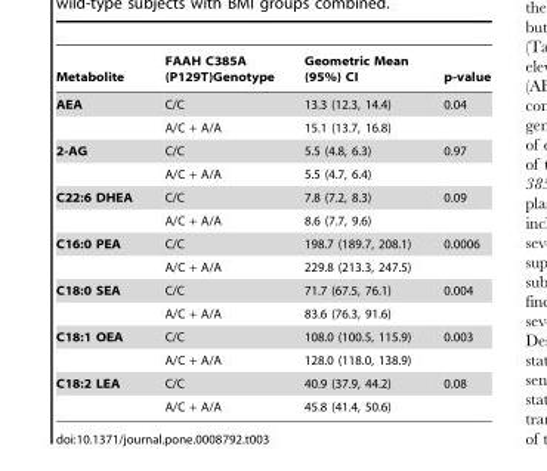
<table><thead><tr><td>Metabolite</td><td>FAAH C385A (P129T)Genotype</td><td>Geometric Mean (95%) CI</td><td>p-value</td></tr></thead><tbody><tr><td rowspan="2">AEA</td><td>C/C</td><td>13.3 (12.3, 14.4)</td><td>0.04</td></tr><tr><td>A/C + A/A</td><td>15.1 (13.7, 16.8)</td><td></td></tr><tr><td rowspan="2">2-AG</td><td>C/C</td><td>5.5 (4.8, 6.3)</td><td>0.97</td></tr><tr><td>A/C + A/A</td><td>5.5 (4.7, 6.4)</td><td></td></tr><tr><td rowspan="2">C22:6 DHEA</td><td>C/C</td><td>7.8 (7.2, 8.3)</td><td>0.09</td></tr><tr><td>A/C + A/A</td><td>8.6 (7.7, 9.6)</td><td></td></tr><tr><td rowspan="2">C16:0 PEA</td><td>C/C</td><td>198.7 (189.7, 208.1)</td><td>0.0006</td></tr><tr><td>A/C + A/A</td><td>229.8 (213.3, 247.5)</td><td></td></tr><tr><td rowspan="2">C18:0 SEA</td><td>C/C</td><td>71.7 (67.5, 76.1)</td><td>0.004</td></tr><tr><td>A/C + A/A</td><td>83.6 (76.3, 91.6)</td><td></td></tr><tr><td rowspan="2">C18:1 OEA</td><td>C/C</td><td>108.0 (100.5, 115.9)</td><td>0.003</td></tr><tr><td>A/C + A/A</td><td>128.0 (118.0, 138.9)</td><td></td></tr><tr><td rowspan="2">C18:2 LEA</td><td>C/C</td><td>40.9 (37.9, 44.2)</td><td>0.08</td></tr><tr><td>A/C + A/A</td><td>45.8 (41.4, 50.6)</td><td></td></tr></tbody></table>